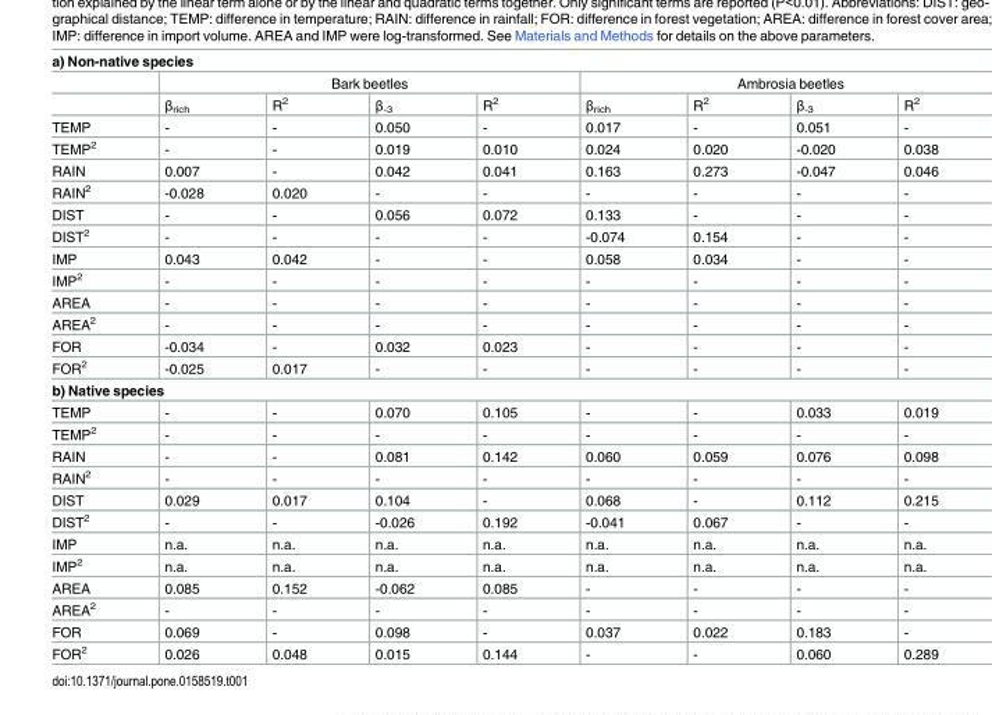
<table><tbody><tr><td colspan="9">a) Non-native species</td></tr><tr><td></td><td colspan="4">Bark beetles</td><td colspan="4">Ambrosia beetles</td></tr><tr><td></td><td>β<sub>rich</sub></td><td>R<sup>2</sup></td><td>β<sub>-3</sub></td><td>R<sup>2</sup></td><td>β<sub>rich</sub></td><td>R<sup>2</sup></td><td>β<sub>-3</sub></td><td>R<sup>2</sup></td></tr><tr><td>TEMP</td><td>-</td><td>-</td><td>0.050</td><td>-</td><td>0.017</td><td>-</td><td>0.051</td><td>-</td></tr><tr><td>TEMP<sup>2</sup></td><td>-</td><td>-</td><td>0.019</td><td>0.010</td><td>0.024</td><td>0.020</td><td>-0.020</td><td>0.038</td></tr><tr><td>RAIN</td><td>0.007</td><td>-</td><td>0.042</td><td>0.041</td><td>0.163</td><td>0.273</td><td>-0.047</td><td>0.046</td></tr><tr><td>RAIN<sup>2</sup></td><td>-0.028</td><td>0.020</td><td>-</td><td>-</td><td>-</td><td>-</td><td>-</td><td>-</td></tr><tr><td>DIST</td><td>-</td><td>-</td><td>0.056</td><td>0.072</td><td>0.133</td><td>-</td><td>-</td><td>-</td></tr><tr><td>DIST<sup>2</sup></td><td>-</td><td>-</td><td>-</td><td>-</td><td>-0.074</td><td>0.154</td><td>-</td><td>-</td></tr><tr><td>IMP</td><td>0.043</td><td>0.042</td><td>-</td><td>-</td><td>0.058</td><td>0.034</td><td>-</td><td>-</td></tr><tr><td>IMP<sup>2</sup></td><td>-</td><td>-</td><td>-</td><td>-</td><td>-</td><td>-</td><td>-</td><td>-</td></tr><tr><td>AREA</td><td>-</td><td>-</td><td>-</td><td>-</td><td>-</td><td>-</td><td>-</td><td>-</td></tr><tr><td>AREA<sup>2</sup></td><td>-</td><td>-</td><td>-</td><td>-</td><td>-</td><td>-</td><td>-</td><td>-</td></tr><tr><td>FOR</td><td>-0.034</td><td>-</td><td>0.032</td><td>0.023</td><td>-</td><td>-</td><td>-</td><td>-</td></tr><tr><td>FOR<sup>2</sup></td><td>-0.025</td><td>0.017</td><td>-</td><td>-</td><td>-</td><td>-</td><td>-</td><td>-</td></tr><tr><td colspan="9">b) Native species</td></tr><tr><td>TEMP</td><td>-</td><td>-</td><td>0.070</td><td>0.105</td><td>-</td><td>-</td><td>0.033</td><td>0.019</td></tr><tr><td>TEMP<sup>2</sup></td><td>-</td><td>-</td><td>-</td><td>-</td><td>-</td><td>-</td><td>-</td><td>-</td></tr><tr><td>RAIN</td><td>-</td><td>-</td><td>0.081</td><td>0.142</td><td>0.060</td><td>0.059</td><td>0.076</td><td>0.098</td></tr><tr><td>RAIN<sup>2</sup></td><td>-</td><td>-</td><td>-</td><td>-</td><td>-</td><td>-</td><td>-</td><td>-</td></tr><tr><td>DIST</td><td>0.029</td><td>0.017</td><td>0.104</td><td>-</td><td>0.068</td><td>-</td><td>0.112</td><td>0.215</td></tr><tr><td>DIST<sup>2</sup></td><td>-</td><td>-</td><td>-0.026</td><td>0.192</td><td>-0.041</td><td>0.067</td><td>-</td><td>-</td></tr><tr><td>IMP</td><td>n.a.</td><td>n.a.</td><td>n.a.</td><td>n.a.</td><td>n.a.</td><td>n.a.</td><td>n.a.</td><td>n.a.</td></tr><tr><td>IMP<sup>2</sup></td><td>n.a.</td><td>n.a.</td><td>n.a.</td><td>n.a.</td><td>n.a.</td><td>n.a.</td><td>n.a.</td><td>n.a.</td></tr><tr><td>AREA</td><td>0.085</td><td>0.152</td><td>-0.062</td><td>0.085</td><td>-</td><td>-</td><td>-</td><td>-</td></tr><tr><td>AREA<sup>2</sup></td><td>-</td><td>-</td><td>-</td><td>-</td><td>-</td><td>-</td><td>-</td><td>-</td></tr><tr><td>FOR</td><td>0.069</td><td>-</td><td>0.098</td><td>-</td><td>0.037</td><td>0.022</td><td>0.183</td><td>-</td></tr><tr><td>FOR<sup>2</sup></td><td>0.026</td><td>0.048</td><td>0.015</td><td>0.144</td><td>-</td><td>-</td><td>0.060</td><td>0.289</td></tr></tbody></table>